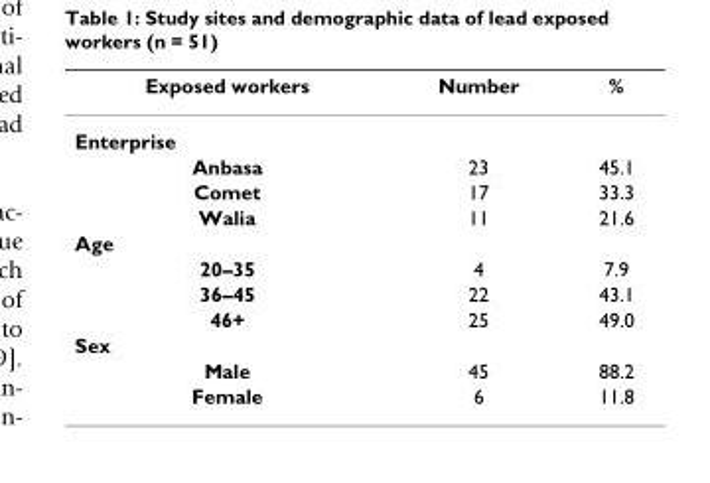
<table><thead><tr><td>Exposed workers</td><td>Number</td><td>%</td></tr></thead><tbody><tr><td colspan="3">Enterprise</td></tr><tr><td>Anbasa</td><td>23</td><td>45.1</td></tr><tr><td>Comet</td><td>17</td><td>33.3</td></tr><tr><td>Walia</td><td>11</td><td>21.6</td></tr><tr><td colspan="3">Age</td></tr><tr><td>20–35</td><td>4</td><td>7.9</td></tr><tr><td>36–45</td><td>22</td><td>43.1</td></tr><tr><td>46+</td><td>25</td><td>49.0</td></tr><tr><td colspan="3">Sex</td></tr><tr><td>Male</td><td>45</td><td>88.2</td></tr><tr><td>Female</td><td>6</td><td>11.8</td></tr></tbody></table>